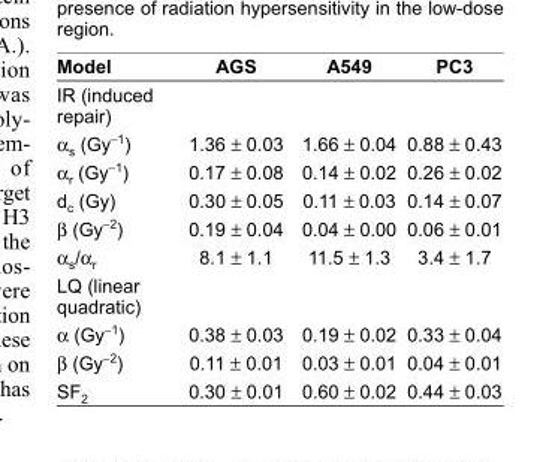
<table><thead><tr><td>Model</td><td>AGS</td><td>A549</td><td>PC3</td></tr></thead><tbody><tr><td colspan="4">IR (induced repair)</td></tr><tr><td>α<sub>s</sub> (Gy<sup>−1</sup>)</td><td>1.36 ± 0.03</td><td>1.66 ± 0.04</td><td>0.88 ± 0.43</td></tr><tr><td>α<sub>r</sub> (Gy<sup>−1</sup>)</td><td>0.17 ± 0.08</td><td>0.14 ± 0.02</td><td>0.26 ± 0.02</td></tr><tr><td>d<sub>c</sub> (Gy)</td><td>0.30 ± 0.05</td><td>0.11 ± 0.03</td><td>0.14 ± 0.07</td></tr><tr><td>β (Gy<sup>−2</sup>)</td><td>0.19 ± 0.04</td><td>0.04 ± 0.00</td><td>0.06 ± 0.01</td></tr><tr><td>α<sub>s</sub>/α<sub>r</sub></td><td>8.1 ± 1.1</td><td>11.5 ± 1.3</td><td>3.4 ± 1.7</td></tr><tr><td colspan="4">LQ (linear quadratic)</td></tr><tr><td>α (Gy<sup>−1</sup>)</td><td>0.38 ± 0.03</td><td>0.19 ± 0.02</td><td>0.33 ± 0.04</td></tr><tr><td>β (Gy<sup>−2</sup>)</td><td>0.11 ± 0.01</td><td>0.03 ± 0.01</td><td>0.04 ± 0.01</td></tr><tr><td>SF<sub>2</sub></td><td>0.30 ± 0.01</td><td>0.60 ± 0.02</td><td>0.44 ± 0.03</td></tr></tbody></table>